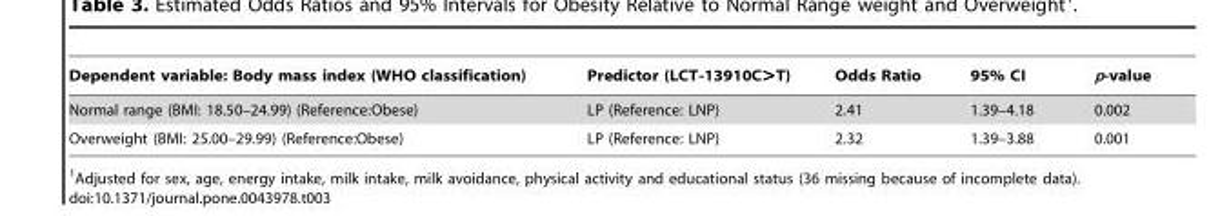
<table><thead><tr><td>Dependent variable: Body mass index (WHO classification)</td><td>Predictor (LCT-13910C&gt;T)</td><td>Odds Ratio</td><td>95% CI</td><td>p-value</td></tr></thead><tbody><tr><td>Normal range (BMI: 18.50–24.99) (Reference:Obese)</td><td>LP (Reference: LNP)</td><td>2.41</td><td>1.39–4.18</td><td>0.002</td></tr><tr><td>Overweight (BMI: 25.00–29.99) (Reference:Obese)</td><td>LP (Reference: LNP)</td><td>2.32</td><td>1.39–3.88</td><td>0.001</td></tr></tbody></table>